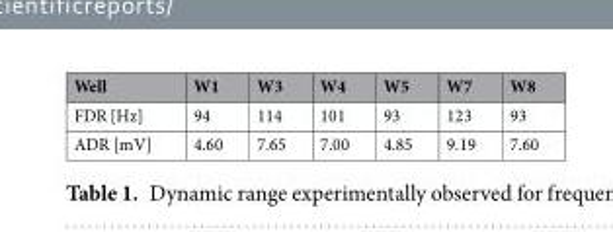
<table><thead><tr><td>Well</td><td>W1</td><td>W3</td><td>W4</td><td>W5</td><td>W7</td><td>W8</td></tr></thead><tbody><tr><td>FDR [Hz]</td><td>94</td><td>114</td><td>101</td><td>93</td><td>123</td><td>93</td></tr><tr><td>ADR [mV]</td><td>4.60</td><td>7.65</td><td>7.00</td><td>4.85</td><td>9.19</td><td>7.60</td></tr></tbody></table>